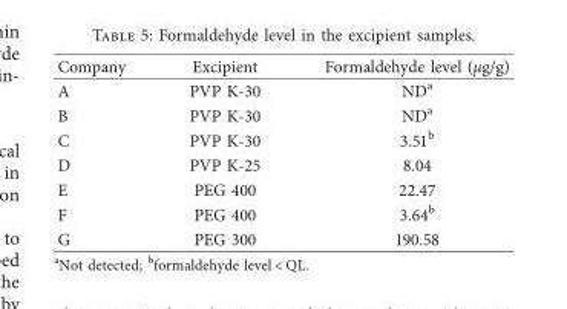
<table><thead><tr><td>Company</td><td>Excipient</td><td>Formaldehyde level (µg/g)</td></tr></thead><tbody><tr><td>A</td><td>PVP K-30</td><td>ND<sup>a</sup></td></tr><tr><td>B</td><td>PVP K-30</td><td>ND<sup>a</sup></td></tr><tr><td>C</td><td>PVP K-30</td><td>3.51<sup>b</sup></td></tr><tr><td>D</td><td>PVP K-25</td><td>8.04</td></tr><tr><td>E</td><td>PEG 400</td><td>22.47</td></tr><tr><td>F</td><td>PEG 400</td><td>3.64<sup>b</sup></td></tr><tr><td>G</td><td>PEG 300</td><td>190.58</td></tr></tbody></table>